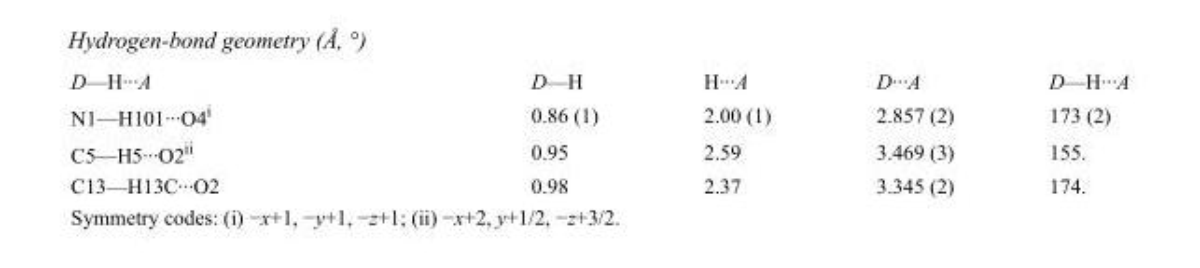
<table><tbody><tr><td>D—H···A</td><td>D—H</td><td>H···A</td><td>D···A</td><td>D—H···A</td></tr><tr><td>N1—H101···O4<sup>i</sup></td><td>0.86 (1)</td><td>2.00 (1)</td><td>2.857 (2)</td><td>173 (2)</td></tr><tr><td>C5—H5···O2<sup>ii</sup></td><td>0.95</td><td>2.59</td><td>3.469 (3)</td><td>155.</td></tr><tr><td>C13—H13C···O2</td><td>0.98</td><td>2.37</td><td>3.345 (2)</td><td>174.</td></tr></tbody></table>